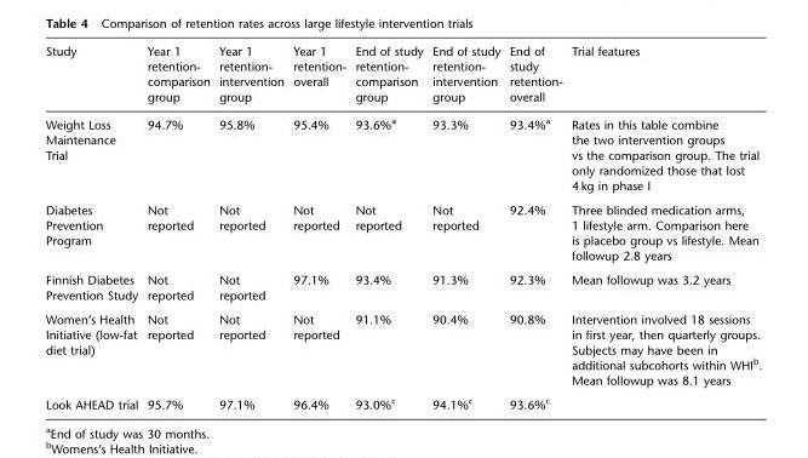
<table><thead><tr><td>Study</td><td>Year 1 retention- comparison group</td><td>Year 1 retention- intervention group</td><td>Year 1 retention- overall</td><td>End of study retention- comparison group</td><td>End of study retention- intervention group</td><td>End of study retention- overall</td><td>Trial features</td></tr></thead><tbody><tr><td>Weight Loss Maintenance Trial</td><td>94.7%</td><td>95.8%</td><td>95.4%</td><td>93.6%<sup>a</sup></td><td>93.3%</td><td>93.4%<sup>a</sup></td><td>Rates in this table combine the two intervention groups vs the comparison group. The trial only randomized those that lost 4 kg in phase I</td></tr><tr><td>Diabetes Prevention Program</td><td>Not reported</td><td>Not reported</td><td>Not reported</td><td>Not reported</td><td>Not reported</td><td>92.4%</td><td>Three blinded medication arms, 1 lifestyle arm. Comparison here is placebo group vs lifestyle. Mean followup 2.8 years</td></tr><tr><td>Finnish Diabetes Prevention Study</td><td>Not reported</td><td>Not reported</td><td>97.1%</td><td>93.4%</td><td>91.3%</td><td>92.3%</td><td>Mean followup was 3.2 years</td></tr><tr><td>Women’s Health Initiative (low-fat diet trial)</td><td>Not reported</td><td>Not reported</td><td>Not reported</td><td>91.1%</td><td>90.4%</td><td>90.8%</td><td>Intervention involved 18 sessions in first year, then quarterly groups. Subjects may have been in additional subcohorts within WHI<sup>b</sup>. Mean followup was 8.1 years</td></tr><tr><td>Look AHEAD trial</td><td>95.7%</td><td>97.1%</td><td>96.4%</td><td>93.0%<sup>c</sup></td><td>94.1%<sup>c</sup></td><td>93.6%<sup>c</sup></td><td></td></tr></tbody></table>